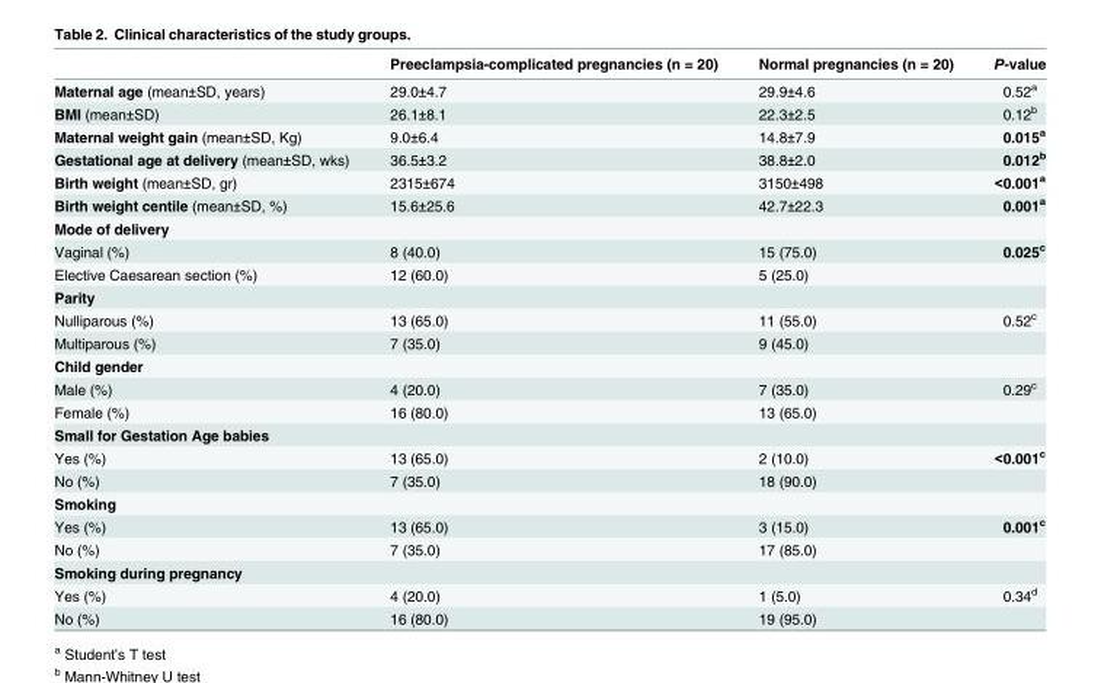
<table><thead><tr><td></td><td>Preeclampsia-complicated pregnancies (n = 20)</td><td>Normal pregnancies (n = 20)</td><td>P-value</td></tr></thead><tbody><tr><td>Maternal age (mean±SD, years)</td><td>29.0±4.7</td><td>29.9±4.6</td><td>0.52<sup>a</sup></td></tr><tr><td>BMI (mean±SD)</td><td>26.1±8.1</td><td>22.3±2.5</td><td>0.12<sup>b</sup></td></tr><tr><td>Maternal weight gain (mean±SD, Kg)</td><td>9.0±6.4</td><td>14.8±7.9</td><td>0.015<sup>a</sup></td></tr><tr><td>Gestational age at delivery (mean±SD, wks)</td><td>36.5±3.2</td><td>38.8±2.0</td><td>0.012<sup>b</sup></td></tr><tr><td>Birth weight (mean±SD, gr)</td><td>2315±674</td><td>3150±498</td><td>&lt;0.001<sup>a</sup></td></tr><tr><td>Birth weight centile (mean±SD, %)</td><td>15.6±25.6</td><td>42.7±22.3</td><td>0.001<sup>a</sup></td></tr><tr><td colspan="4">Mode of delivery</td></tr><tr><td>Vaginal (%)</td><td>8 (40.0)</td><td>15 (75.0)</td><td>0.025<sup>c</sup></td></tr><tr><td>Elective Caesarean section (%)</td><td>12 (60.0)</td><td>5 (25.0)</td><td></td></tr><tr><td colspan="4">Parity</td></tr><tr><td>Nulliparous (%)</td><td>13 (65.0)</td><td>11 (55.0)</td><td>0.52<sup>c</sup></td></tr><tr><td>Multiparous (%)</td><td>7 (35.0)</td><td>9 (45.0)</td><td></td></tr><tr><td colspan="4">Child gender</td></tr><tr><td>Male (%)</td><td>4 (20.0)</td><td>7 (35.0)</td><td>0.29<sup>c</sup></td></tr><tr><td>Female (%)</td><td>16 (80.0)</td><td>13 (65.0)</td><td></td></tr><tr><td colspan="4">Small for Gestation Age babies</td></tr><tr><td>Yes (%)</td><td>13 (65.0)</td><td>2 (10.0)</td><td>&lt;0.001<sup>c</sup></td></tr><tr><td>No (%)</td><td>7 (35.0)</td><td>18 (90.0)</td><td></td></tr><tr><td colspan="4">Smoking</td></tr><tr><td>Yes (%)</td><td>13 (65.0)</td><td>3 (15.0)</td><td>0.001<sup>c</sup></td></tr><tr><td>No (%)</td><td>7 (35.0)</td><td>17 (85.0)</td><td></td></tr><tr><td colspan="4">Smoking during pregnancy</td></tr><tr><td>Yes (%)</td><td>4 (20.0)</td><td>1 (5.0)</td><td>0.34<sup>d</sup></td></tr><tr><td>No (%)</td><td>16 (80.0)</td><td>19 (95.0)</td><td></td></tr></tbody></table>